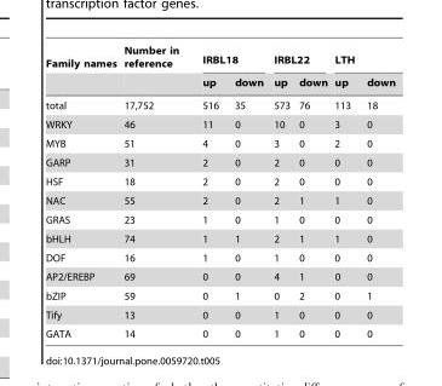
<table><thead><tr><td rowspan="2">Family names</td><td rowspan="2">Number in reference</td><td colspan="2">IRBL18</td><td colspan="2">IRBL22</td><td colspan="2">LTH</td></tr><tr><td>up</td><td>down</td><td>up</td><td>down</td><td>up</td><td>down</td></tr></thead><tbody><tr><td>total</td><td>17,752</td><td>516</td><td>35</td><td>573</td><td>76</td><td>113</td><td>18</td></tr><tr><td>WRKY</td><td>46</td><td>11</td><td>0</td><td>10</td><td>0</td><td>3</td><td>0</td></tr><tr><td>MYB</td><td>51</td><td>4</td><td>0</td><td>3</td><td>0</td><td>2</td><td>0</td></tr><tr><td>GARP</td><td>31</td><td>2</td><td>0</td><td>2</td><td>0</td><td>0</td><td>0</td></tr><tr><td>HSF</td><td>18</td><td>2</td><td>0</td><td>2</td><td>0</td><td>0</td><td>0</td></tr><tr><td>NAC</td><td>55</td><td>2</td><td>0</td><td>2</td><td>1</td><td>1</td><td>0</td></tr><tr><td>GRAS</td><td>23</td><td>1</td><td>0</td><td>1</td><td>0</td><td>0</td><td>0</td></tr><tr><td>bHLH</td><td>74</td><td>1</td><td>1</td><td>2</td><td>1</td><td>1</td><td>0</td></tr><tr><td>DOF</td><td>16</td><td>1</td><td>0</td><td>1</td><td>0</td><td>0</td><td>0</td></tr><tr><td>AP2/EREBP</td><td>69</td><td>0</td><td>0</td><td>4</td><td>1</td><td>0</td><td>0</td></tr><tr><td>bZIP</td><td>59</td><td>0</td><td>1</td><td>0</td><td>2</td><td>0</td><td>1</td></tr><tr><td>Tify</td><td>13</td><td>0</td><td>0</td><td>1</td><td>0</td><td>0</td><td>0</td></tr><tr><td>GATA</td><td>14</td><td>0</td><td>0</td><td>1</td><td>0</td><td>0</td><td>0</td></tr></tbody></table>